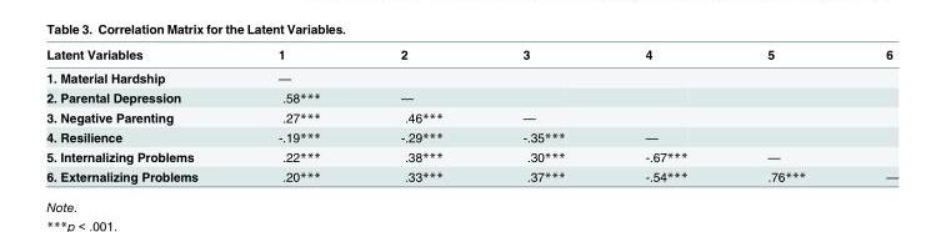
<table><thead><tr><td>Latent Variables</td><td>1</td><td>2</td><td>3</td><td>4</td><td>5</td><td>6</td></tr></thead><tbody><tr><td>1. Material Hardship</td><td>—</td><td></td><td></td><td></td><td></td><td></td></tr><tr><td>2. Parental Depression</td><td>.58***</td><td>—</td><td></td><td></td><td></td><td></td></tr><tr><td>3. Negative Parenting</td><td>.27***</td><td>.46***</td><td>—</td><td></td><td></td><td></td></tr><tr><td>4. Resilience</td><td>-.19***</td><td>-.29***</td><td>-.35***</td><td>—</td><td></td><td></td></tr><tr><td>5. Internalizing Problems</td><td>.22***</td><td>.38***</td><td>.30***</td><td>-.67***</td><td>—</td><td></td></tr><tr><td>6. Externalizing Problems</td><td>.20***</td><td>.33***</td><td>.37***</td><td>-.54***</td><td>.76***</td><td>—</td></tr></tbody></table>